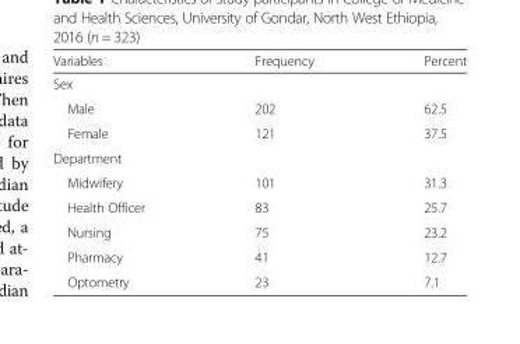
<table><thead><tr><td>Variables</td><td>Frequency</td><td>Percent</td></tr></thead><tbody><tr><td colspan="3">Sex</td></tr><tr><td>Male</td><td>202</td><td>62.5</td></tr><tr><td>Female</td><td>121</td><td>37.5</td></tr><tr><td colspan="3">Department</td></tr><tr><td>Midwifery</td><td>101</td><td>31.3</td></tr><tr><td>Health Officer</td><td>83</td><td>25.7</td></tr><tr><td>Nursing</td><td>75</td><td>23.2</td></tr><tr><td>Pharmacy</td><td>41</td><td>12.7</td></tr><tr><td>Optometry</td><td>23</td><td>7.1</td></tr></tbody></table>